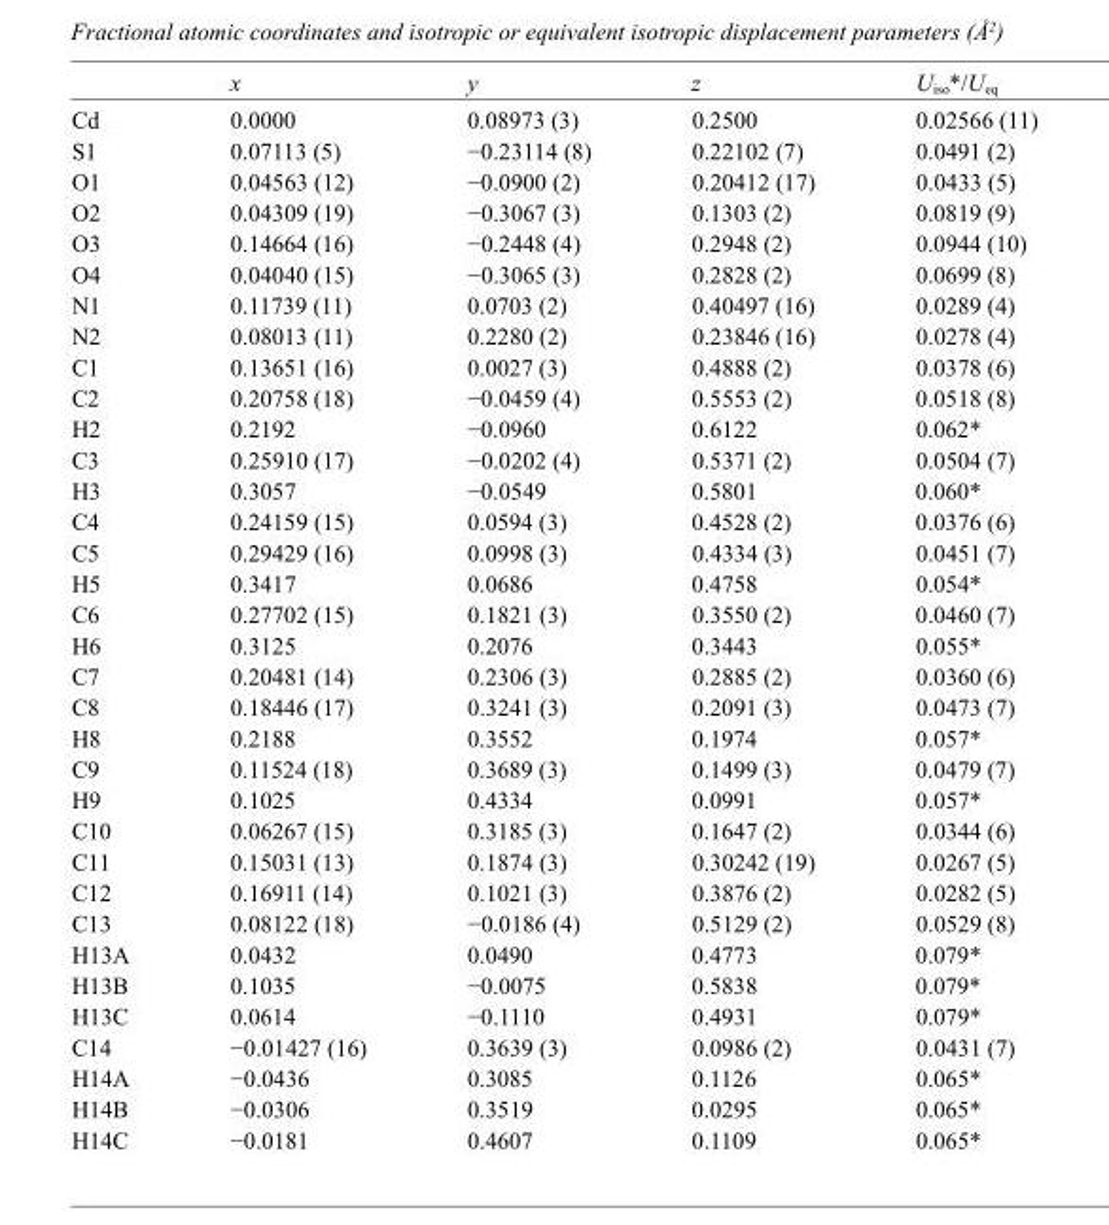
<table><thead><tr><td></td><td>x</td><td>y</td><td>z</td><td>U<sub>iso</sub>*/U<sub>eq</sub></td></tr></thead><tbody><tr><td>Cd</td><td>0.0000</td><td>0.08973 (3)</td><td>0.2500</td><td>0.02566 (11)</td></tr><tr><td>S1</td><td>0.07113 (5)</td><td>−0.23114 (8)</td><td>0.22102 (7)</td><td>0.0491 (2)</td></tr><tr><td>O1</td><td>0.04563 (12)</td><td>−0.0900 (2)</td><td>0.20412 (17)</td><td>0.0433 (5)</td></tr><tr><td>O2</td><td>0.04309 (19)</td><td>−0.3067 (3)</td><td>0.1303 (2)</td><td>0.0819 (9)</td></tr><tr><td>O3</td><td>0.14664 (16)</td><td>−0.2448 (4)</td><td>0.2948 (2)</td><td>0.0944 (10)</td></tr><tr><td>O4</td><td>0.04040 (15)</td><td>−0.3065 (3)</td><td>0.2828 (2)</td><td>0.0699 (8)</td></tr><tr><td>N1</td><td>0.11739 (11)</td><td>0.0703 (2)</td><td>0.40497 (16)</td><td>0.0289 (4)</td></tr><tr><td>N2</td><td>0.08013 (11)</td><td>0.2280 (2)</td><td>0.23846 (16)</td><td>0.0278 (4)</td></tr><tr><td>C1</td><td>0.13651 (16)</td><td>0.0027 (3)</td><td>0.4888 (2)</td><td>0.0378 (6)</td></tr><tr><td>C2</td><td>0.20758 (18)</td><td>−0.0459 (4)</td><td>0.5553 (2)</td><td>0.0518 (8)</td></tr><tr><td>H2</td><td>0.2192</td><td>−0.0960</td><td>0.6122</td><td>0.062*</td></tr><tr><td>C3</td><td>0.25910 (17)</td><td>−0.0202 (4)</td><td>0.5371 (2)</td><td>0.0504 (7)</td></tr><tr><td>H3</td><td>0.3057</td><td>−0.0549</td><td>0.5801</td><td>0.060*</td></tr><tr><td>C4</td><td>0.24159 (15)</td><td>0.0594 (3)</td><td>0.4528 (2)</td><td>0.0376 (6)</td></tr><tr><td>C5</td><td>0.29429 (16)</td><td>0.0998 (3)</td><td>0.4334 (3)</td><td>0.0451 (7)</td></tr><tr><td>H5</td><td>0.3417</td><td>0.0686</td><td>0.4758</td><td>0.054*</td></tr><tr><td>C6</td><td>0.27702 (15)</td><td>0.1821 (3)</td><td>0.3550 (2)</td><td>0.0460 (7)</td></tr><tr><td>H6</td><td>0.3125</td><td>0.2076</td><td>0.3443</td><td>0.055*</td></tr><tr><td>C7</td><td>0.20481 (14)</td><td>0.2306 (3)</td><td>0.2885 (2)</td><td>0.0360 (6)</td></tr><tr><td>C8</td><td>0.18446 (17)</td><td>0.3241 (3)</td><td>0.2091 (3)</td><td>0.0473 (7)</td></tr><tr><td>H8</td><td>0.2188</td><td>0.3552</td><td>0.1974</td><td>0.057*</td></tr><tr><td>C9</td><td>0.11524 (18)</td><td>0.3689 (3)</td><td>0.1499 (3)</td><td>0.0479 (7)</td></tr><tr><td>H9</td><td>0.1025</td><td>0.4334</td><td>0.0991</td><td>0.057*</td></tr><tr><td>C10</td><td>0.06267 (15)</td><td>0.3185 (3)</td><td>0.1647 (2)</td><td>0.0344 (6)</td></tr><tr><td>C11</td><td>0.15031 (13)</td><td>0.1874 (3)</td><td>0.30242 (19)</td><td>0.0267 (5)</td></tr><tr><td>C12</td><td>0.16911 (14)</td><td>0.1021 (3)</td><td>0.3876 (2)</td><td>0.0282 (5)</td></tr><tr><td>C13</td><td>0.08122 (18)</td><td>−0.0186 (4)</td><td>0.5129 (2)</td><td>0.0529 (8)</td></tr><tr><td>H13A</td><td>0.0432</td><td>0.0490</td><td>0.4773</td><td>0.079*</td></tr><tr><td>H13B</td><td>0.1035</td><td>−0.0075</td><td>0.5838</td><td>0.079*</td></tr><tr><td>H13C</td><td>0.0614</td><td>−0.1110</td><td>0.4931</td><td>0.079*</td></tr><tr><td>C14</td><td>−0.01427 (16)</td><td>0.3639 (3)</td><td>0.0986 (2)</td><td>0.0431 (7)</td></tr><tr><td>H14A</td><td>−0.0436</td><td>0.3085</td><td>0.1126</td><td>0.065*</td></tr><tr><td>H14B</td><td>−0.0306</td><td>0.3519</td><td>0.0295</td><td>0.065*</td></tr><tr><td>H14C</td><td>−0.0181</td><td>0.4607</td><td>0.1109</td><td>0.065*</td></tr></tbody></table>